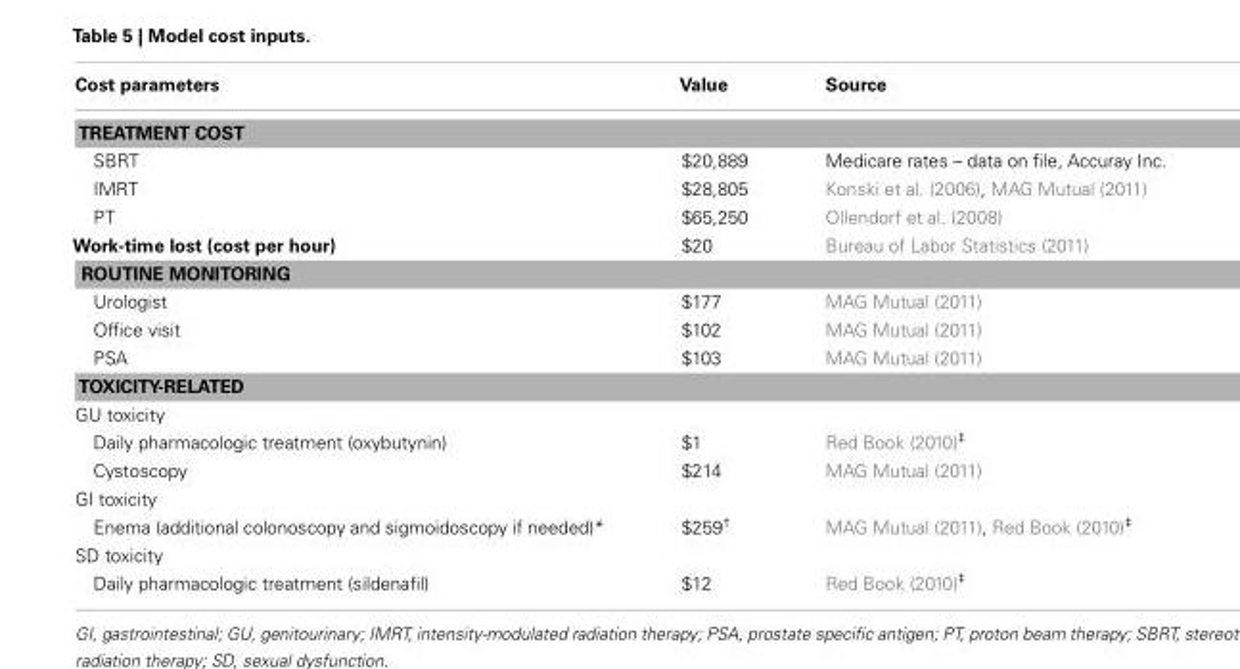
<table><thead><tr><td>Cost parameters</td><td>Value</td><td>Source</td></tr></thead><tbody><tr><td colspan="3">TREATMENT COST</td></tr><tr><td>SBRT</td><td>$20,889</td><td>Medicare rates – data on file, Accuray Inc.</td></tr><tr><td>IMRT</td><td>$28,805</td><td>Konski et al. (2006), MAG Mutual (2011)</td></tr><tr><td>PT</td><td>$65,250</td><td>Ollendorf et al. (2008)</td></tr><tr><td>Work-time lost (cost per hour)</td><td>$20</td><td>Bureau of Labor Statistics (2011)</td></tr><tr><td colspan="3">ROUTINE MONITORING</td></tr><tr><td>Urologist</td><td>$177</td><td>MAG Mutual (2011)</td></tr><tr><td>Office visit</td><td>$102</td><td>MAG Mutual (2011)</td></tr><tr><td>PSA</td><td>$103</td><td>MAG Mutual (2011)</td></tr><tr><td colspan="3">TOXICITY-RELATED</td></tr><tr><td colspan="3">GU toxicity</td></tr><tr><td>Daily pharmacologic treatment (oxybutynin)</td><td>$1</td><td>Red Book (2010)<sup>‡</sup></td></tr><tr><td>Cystoscopy</td><td>$214</td><td>MAG Mutual (2011)</td></tr><tr><td colspan="3">GI toxicity</td></tr><tr><td>Enema (additional colonoscopy and sigmoidoscopy if needed)*</td><td>$259<sup>†</sup></td><td>MAG Mutual (2011), Red Book (2010)<sup>‡</sup></td></tr><tr><td colspan="3">SD toxicity</td></tr><tr><td>Daily pharmacologic treatment (sildenafil)</td><td>$12</td><td>Red Book (2010)<sup>‡</sup></td></tr></tbody></table>